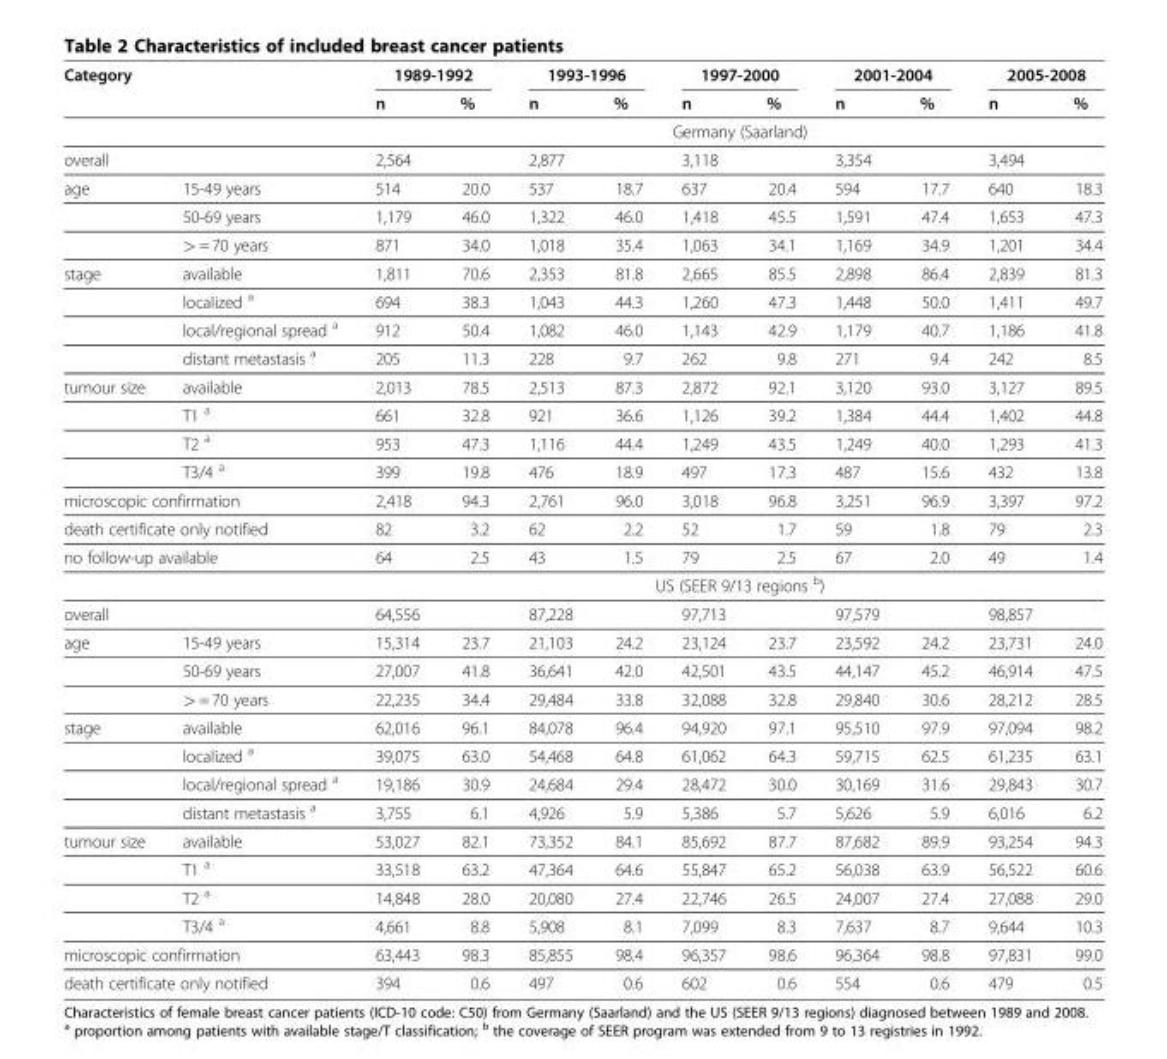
<table><thead><tr><td colspan="2">Category</td><td colspan="2">1989-1992</td><td colspan="2">1993-1996</td><td colspan="2">1997-2000</td><td colspan="2">2001-2004</td><td colspan="2">2005-2008</td></tr><tr><td></td><td></td><td>n</td><td>%</td><td>n</td><td>%</td><td>n</td><td>%</td><td>n</td><td>%</td><td>n</td><td>%</td></tr></thead><tbody><tr><td></td><td></td><td colspan="10">Germany (Saarland)</td></tr><tr><td>overall</td><td></td><td>2,564</td><td></td><td>2,877</td><td></td><td>3,118</td><td></td><td>3,354</td><td></td><td>3,494</td><td></td></tr><tr><td rowspan="3">age</td><td>15-49 years</td><td>514</td><td>20.0</td><td>537</td><td>18.7</td><td>637</td><td>20.4</td><td>594</td><td>17.7</td><td>640</td><td>18.3</td></tr><tr><td>50-69 years</td><td>1,179</td><td>46.0</td><td>1,322</td><td>46.0</td><td>1,418</td><td>45.5</td><td>1,591</td><td>47.4</td><td>1,653</td><td>47.3</td></tr><tr><td>&gt; = 70 years</td><td>871</td><td>34.0</td><td>1,018</td><td>35.4</td><td>1,063</td><td>34.1</td><td>1,169</td><td>34.9</td><td>1,201</td><td>34.4</td></tr><tr><td rowspan="4">stage</td><td>available</td><td>1,811</td><td>70.6</td><td>2,353</td><td>81.8</td><td>2,665</td><td>85.5</td><td>2,898</td><td>86.4</td><td>2,839</td><td>81.3</td></tr><tr><td>localized <sup>a</sup></td><td>694</td><td>38.3</td><td>1,043</td><td>44.3</td><td>1,260</td><td>47.3</td><td>1,448</td><td>50.0</td><td>1,411</td><td>49.7</td></tr><tr><td>local/regional spread <sup>a</sup></td><td>912</td><td>50.4</td><td>1,082</td><td>46.0</td><td>1,143</td><td>42.9</td><td>1,179</td><td>40.7</td><td>1,186</td><td>41.8</td></tr><tr><td>distant metastasis <sup>a</sup></td><td>205</td><td>11.3</td><td>228</td><td>9.7</td><td>262</td><td>9.8</td><td>271</td><td>9.4</td><td>242</td><td>8.5</td></tr><tr><td rowspan="4">tumour size</td><td>available</td><td>2,013</td><td>78.5</td><td>2,513</td><td>87.3</td><td>2,872</td><td>92.1</td><td>3,120</td><td>93.0</td><td>3,127</td><td>89.5</td></tr><tr><td>T1 <sup>a</sup></td><td>661</td><td>32.8</td><td>921</td><td>36.6</td><td>1,126</td><td>39.2</td><td>1,384</td><td>44.4</td><td>1,402</td><td>44.8</td></tr><tr><td>T2 <sup>a</sup></td><td>953</td><td>47.3</td><td>1,116</td><td>44.4</td><td>1,249</td><td>43.5</td><td>1,249</td><td>40.0</td><td>1,293</td><td>41.3</td></tr><tr><td>T3/4 <sup>a</sup></td><td>399</td><td>19.8</td><td>476</td><td>18.9</td><td>497</td><td>17.3</td><td>487</td><td>15.6</td><td>432</td><td>13.8</td></tr><tr><td colspan="2">microscopic confirmation</td><td>2,418</td><td>94.3</td><td>2,761</td><td>96.0</td><td>3,018</td><td>96.8</td><td>3,251</td><td>96.9</td><td>3,397</td><td>97.2</td></tr><tr><td colspan="2">death certificate only notified</td><td>82</td><td>3.2</td><td>62</td><td>2.2</td><td>52</td><td>1.7</td><td>59</td><td>1.8</td><td>79</td><td>2.3</td></tr><tr><td colspan="2">no follow-up available</td><td>64</td><td>2.5</td><td>43</td><td>1.5</td><td>79</td><td>2.5</td><td>67</td><td>2.0</td><td>49</td><td>1.4</td></tr><tr><td></td><td></td><td colspan="10">US (SEER 9/13 regions <sup>b</sup>)</td></tr><tr><td>overall</td><td></td><td>64,556</td><td></td><td>87,228</td><td></td><td>97,713</td><td></td><td>97,579</td><td></td><td>98,857</td><td></td></tr><tr><td rowspan="3">age</td><td>15-49 years</td><td>15,314</td><td>23.7</td><td>21,103</td><td>24.2</td><td>23,124</td><td>23.7</td><td>23,592</td><td>24.2</td><td>23,731</td><td>24.0</td></tr><tr><td>50-69 years</td><td>27,007</td><td>41.8</td><td>36,641</td><td>42.0</td><td>42,501</td><td>43.5</td><td>44,147</td><td>45.2</td><td>46,914</td><td>47.5</td></tr><tr><td>&gt; = 70 years</td><td>22,235</td><td>34.4</td><td>29,484</td><td>33.8</td><td>32,088</td><td>32.8</td><td>29,840</td><td>30.6</td><td>28,212</td><td>28.5</td></tr><tr><td rowspan="4">stage</td><td>available</td><td>62,016</td><td>96.1</td><td>84,078</td><td>96.4</td><td>94,920</td><td>97.1</td><td>95,510</td><td>97.9</td><td>97,094</td><td>98.2</td></tr><tr><td>localized <sup>a</sup></td><td>39,075</td><td>63.0</td><td>54,468</td><td>64.8</td><td>61,062</td><td>64.3</td><td>59,715</td><td>62.5</td><td>61,235</td><td>63.1</td></tr><tr><td>local/regional spread <sup>a</sup></td><td>19,186</td><td>30.9</td><td>24,684</td><td>29.4</td><td>28,472</td><td>30.0</td><td>30,169</td><td>31.6</td><td>29,843</td><td>30.7</td></tr><tr><td>distant metastasis <sup>a</sup></td><td>3,755</td><td>6.1</td><td>4,926</td><td>5.9</td><td>5,386</td><td>5.7</td><td>5,626</td><td>5.9</td><td>6,016</td><td>6.2</td></tr><tr><td rowspan="4">tumour size</td><td>available</td><td>53,027</td><td>82.1</td><td>73,352</td><td>84.1</td><td>85,692</td><td>87.7</td><td>87,682</td><td>89.9</td><td>93,254</td><td>94.3</td></tr><tr><td>T1 <sup>a</sup></td><td>33,518</td><td>63.2</td><td>47,364</td><td>64.6</td><td>55,847</td><td>65.2</td><td>56,038</td><td>63.9</td><td>56,522</td><td>60.6</td></tr><tr><td>T2 <sup>a</sup></td><td>14,848</td><td>28.0</td><td>20,080</td><td>27.4</td><td>22,746</td><td>26.5</td><td>24,007</td><td>27.4</td><td>27,088</td><td>29.0</td></tr><tr><td>T3/4 <sup>a</sup></td><td>4,661</td><td>8.8</td><td>5,908</td><td>8.1</td><td>7,099</td><td>8.3</td><td>7,637</td><td>8.7</td><td>9,644</td><td>10.3</td></tr><tr><td colspan="2">microscopic confirmation</td><td>63,443</td><td>98.3</td><td>85,855</td><td>98.4</td><td>96,357</td><td>98.6</td><td>96,364</td><td>98.8</td><td>97,831</td><td>99.0</td></tr><tr><td colspan="2">death certificate only notified</td><td>394</td><td>0.6</td><td>497</td><td>0.6</td><td>602</td><td>0.6</td><td>554</td><td>0.6</td><td>479</td><td>0.5</td></tr></tbody></table>